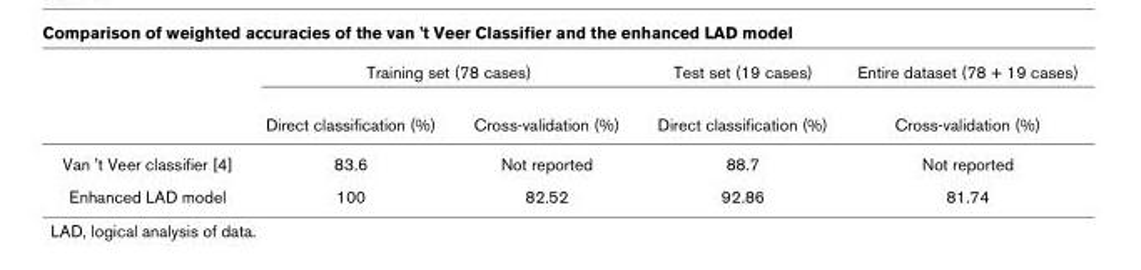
<table><thead><tr><td rowspan="2"></td><td colspan="2">Training set (78 cases)</td><td rowspan="2">Test set (19 cases) Direct classification (%)</td><td rowspan="2">Entire dataset (78 + 19 cases) Cross-validation (%)</td></tr><tr><td>Direct classification (%)</td><td>Cross-validation (%)</td></tr></thead><tbody><tr><td>Van &#x27;t Veer classifier [4]</td><td>83.6</td><td>Not reported</td><td>88.7</td><td>Not reported</td></tr><tr><td>Enhanced LAD model</td><td>100</td><td>82.52</td><td>92.86</td><td>81.74</td></tr></tbody></table>